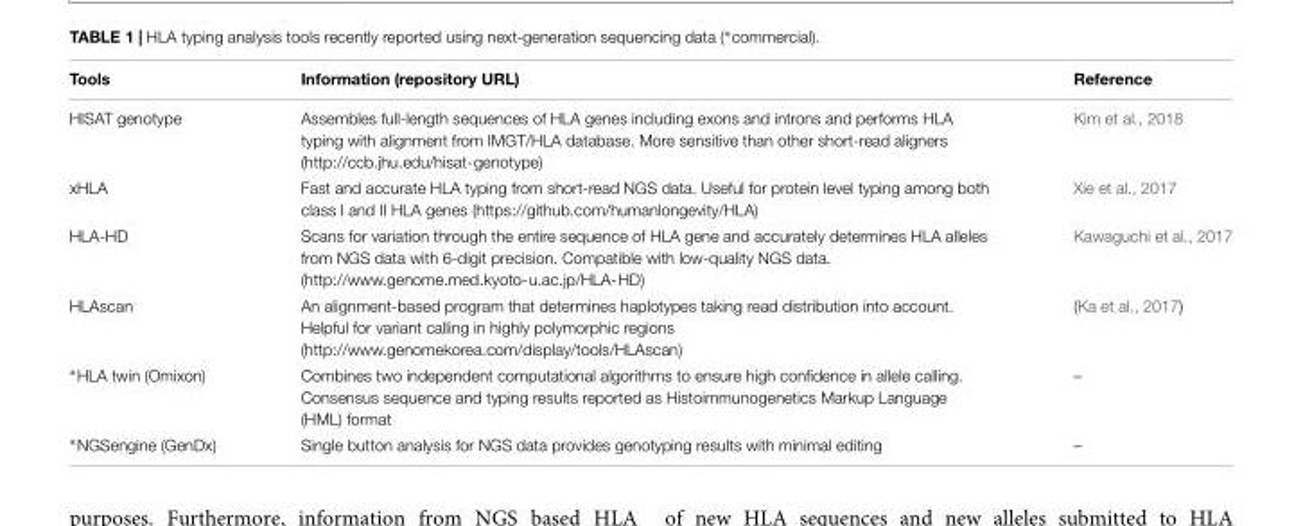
<table><thead><tr><td>Tools</td><td>Information (repository URL)</td><td>Reference</td></tr></thead><tbody><tr><td>HISAT genotype</td><td>Assembles full-length sequences of HLA genes including exons and introns and performs HLA typing with alignment from IMGT/HLA database. More sensitive than other short-read aligners (http://ccb.jhu.edu/hisat-genotype)</td><td>Kim et al., 2018</td></tr><tr><td>xHLA</td><td>Fast and accurate HLA typing from short-read NGS data. Useful for protein level typing among both class I and II HLA genes (https://github.com/humanlongevity/HLA)</td><td>Xie et al., 2017</td></tr><tr><td>HLA-HD</td><td>Scans for variation through the entire sequence of HLA gene and accurately determines HLA alleles from NGS data with 6-digit precision. Compatible with low-quality NGS data. (http://www.genome.med.kyoto-u.ac.jp/HLA-HD)</td><td>Kawaguchi et al., 2017</td></tr><tr><td>HLAscan</td><td>An alignment-based program that determines haplotypes taking read distribution into account. Helpful for variant calling in highly polymorphic regions (http://www.genomekorea.com/display/tools/HLAscan)</td><td>(Ka et al., 2017)</td></tr><tr><td>∗HLA twin (Omixon)</td><td>Combines two independent computational algorithms to ensure high confidence in allele calling. Consensus sequence and typing results reported as Histoimmunogenetics Markup Language (HML) format</td><td>–</td></tr><tr><td>∗NGSengine (GenDx)</td><td>Single button analysis for NGS data provides genotyping results with minimal editing</td><td>–</td></tr></tbody></table>